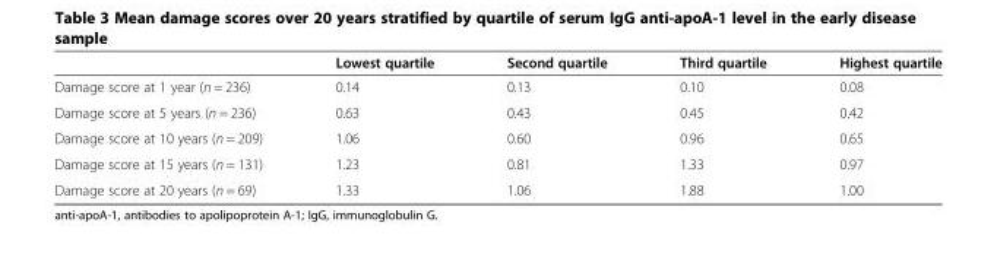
<table><thead><tr><td></td><td>Lowest quartile</td><td>Second quartile</td><td>Third quartile</td><td>Highest quartile</td></tr></thead><tbody><tr><td>Damage score at 1 year (n = 236)</td><td>0.14</td><td>0.13</td><td>0.10</td><td>0.08</td></tr><tr><td>Damage score at 5 years (n = 236)</td><td>0.63</td><td>0.43</td><td>0.45</td><td>0.42</td></tr><tr><td>Damage score at 10 years (n = 209)</td><td>1.06</td><td>0.60</td><td>0.96</td><td>0.65</td></tr><tr><td>Damage score at 15 years (n = 131)</td><td>1.23</td><td>0.81</td><td>1.33</td><td>0.97</td></tr><tr><td>Damage score at 20 years (n = 69)</td><td>1.33</td><td>1.06</td><td>1.88</td><td>1.00</td></tr></tbody></table>